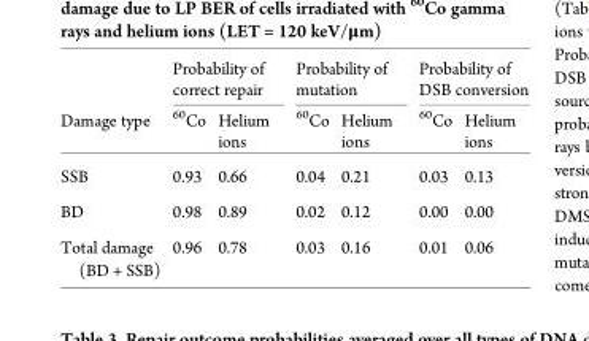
<table><thead><tr><td rowspan="2">Damage type</td><td colspan="2">Probability of correct repair</td><td colspan="2">Probability of mutation</td><td colspan="2">Probability of DSB conversion</td></tr><tr><td><sup>60</sup>Co</td><td>Helium ions</td><td><sup>60</sup>Co</td><td>Helium ions</td><td><sup>60</sup>Co</td><td>Helium ions</td></tr></thead><tbody><tr><td>SSB</td><td>0.93</td><td>0.66</td><td>0.04</td><td>0.21</td><td>0.03</td><td>0.13</td></tr><tr><td>BD</td><td>0.98</td><td>0.89</td><td>0.02</td><td>0.12</td><td>0.00</td><td>0.00</td></tr><tr><td>Total damage (BD + SSB)</td><td>0.96</td><td>0.78</td><td>0.03</td><td>0.16</td><td>0.01</td><td>0.06</td></tr></tbody></table>